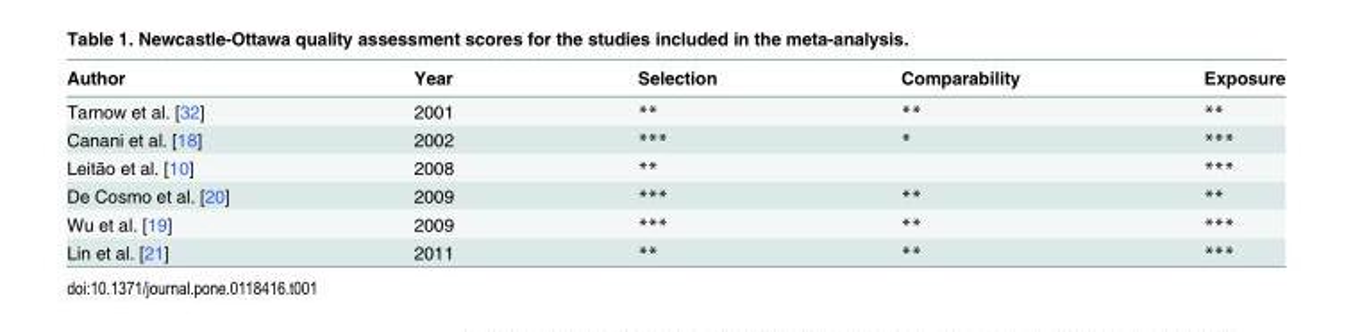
<table><thead><tr><td>Author</td><td>Year</td><td>Selection</td><td>Comparability</td><td>Exposure</td></tr></thead><tbody><tr><td>Tarnow et al. [32]</td><td>2001</td><td>**</td><td>**</td><td>**</td></tr><tr><td>Canani et al. [18]</td><td>2002</td><td>***</td><td>*</td><td>***</td></tr><tr><td>Leitão et al. [10]</td><td>2008</td><td>**</td><td></td><td>***</td></tr><tr><td>De Cosmo et al. [20]</td><td>2009</td><td>***</td><td>**</td><td>**</td></tr><tr><td>Wu et al. [19]</td><td>2009</td><td>***</td><td>**</td><td>***</td></tr><tr><td>Lin et al. [21]</td><td>2011</td><td>**</td><td>**</td><td>***</td></tr></tbody></table>